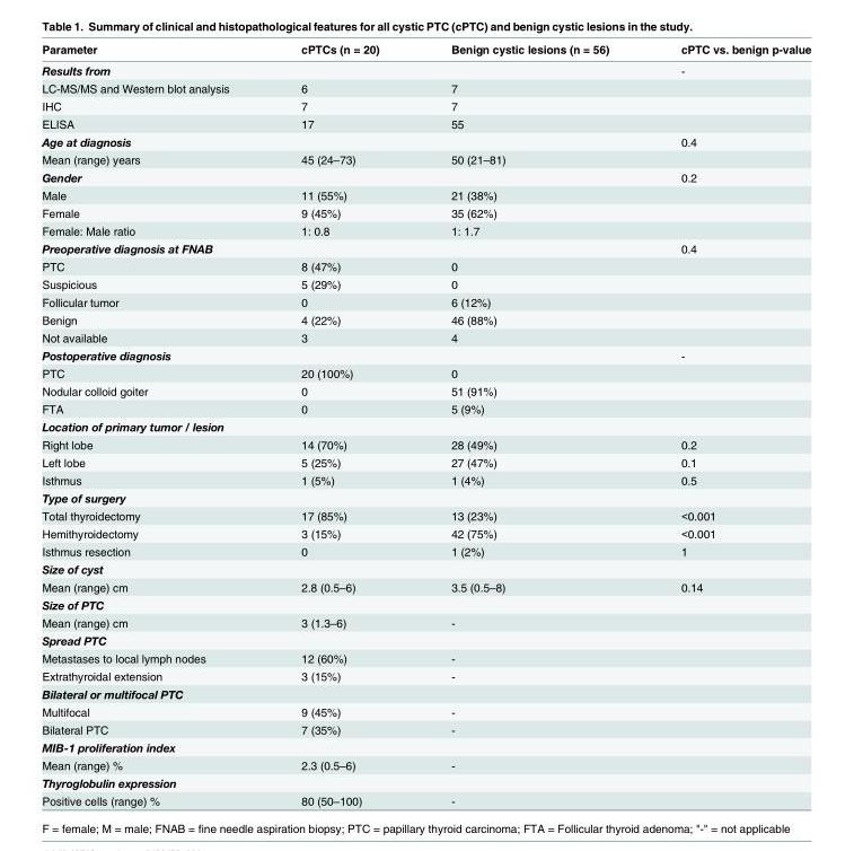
<table><thead><tr><td>Parameter</td><td>cPTCs (n = 20)</td><td>Benign cystic lesions (n = 56)</td><td>cPTC vs. benign p-value</td></tr></thead><tbody><tr><td>Results from</td><td></td><td></td><td>-</td></tr><tr><td>LC-MS/MS and Western blot analysis</td><td>6</td><td>7</td><td></td></tr><tr><td>IHC</td><td>7</td><td>7</td><td></td></tr><tr><td>ELISA</td><td>17</td><td>55</td><td></td></tr><tr><td>Age at diagnosis</td><td></td><td></td><td>0.4</td></tr><tr><td>Mean (range) years</td><td>45 (24–73)</td><td>50 (21–81)</td><td></td></tr><tr><td>Gender</td><td></td><td></td><td>0.2</td></tr><tr><td>Male</td><td>11 (55%)</td><td>21 (38%)</td><td></td></tr><tr><td>Female</td><td>9 (45%)</td><td>35 (62%)</td><td></td></tr><tr><td>Female: Male ratio</td><td>1: 0.8</td><td>1: 1.7</td><td></td></tr><tr><td>Preoperative diagnosis at FNAB</td><td></td><td></td><td>0.4</td></tr><tr><td>PTC</td><td>8 (47%)</td><td>0</td><td></td></tr><tr><td>Suspicious</td><td>5 (29%)</td><td>0</td><td></td></tr><tr><td>Follicular tumor</td><td>0</td><td>6 (12%)</td><td></td></tr><tr><td>Benign</td><td>4 (22%)</td><td>46 (88%)</td><td></td></tr><tr><td>Not available</td><td>3</td><td>4</td><td></td></tr><tr><td>Postoperative diagnosis</td><td></td><td></td><td>-</td></tr><tr><td>PTC</td><td>20 (100%)</td><td>0</td><td></td></tr><tr><td>Nodular colloid goiter</td><td>0</td><td>51 (91%)</td><td></td></tr><tr><td>FTA</td><td>0</td><td>5 (9%)</td><td></td></tr><tr><td colspan="4">Location of primary tumor / lesion</td></tr><tr><td>Right lobe</td><td>14 (70%)</td><td>28 (49%)</td><td>0.2</td></tr><tr><td>Left lobe</td><td>5 (25%)</td><td>27 (47%)</td><td>0.1</td></tr><tr><td>Isthmus</td><td>1 (5%)</td><td>1 (4%)</td><td>0.5</td></tr><tr><td colspan="4">Type of surgery</td></tr><tr><td>Total thyroidectomy</td><td>17 (85%)</td><td>13 (23%)</td><td>&lt;0.001</td></tr><tr><td>Hemithyroidectomy</td><td>3 (15%)</td><td>42 (75%)</td><td>&lt;0.001</td></tr><tr><td>Isthmus resection</td><td>0</td><td>1 (2%)</td><td>1</td></tr><tr><td colspan="4">Size of cyst</td></tr><tr><td>Mean (range) cm</td><td>2.8 (0.5–6)</td><td>3.5 (0.5–8)</td><td>0.14</td></tr><tr><td colspan="4">Size of PTC</td></tr><tr><td>Mean (range) cm</td><td>3 (1.3–6)</td><td>-</td><td></td></tr><tr><td colspan="4">Spread PTC</td></tr><tr><td>Metastases to local lymph nodes</td><td>12 (60%)</td><td>-</td><td></td></tr><tr><td>Extrathyroidal extension</td><td>3 (15%)</td><td>-</td><td></td></tr><tr><td colspan="4">Bilateral or multifocal PTC</td></tr><tr><td>Multifocal</td><td>9 (45%)</td><td>-</td><td></td></tr><tr><td>Bilateral PTC</td><td>7 (35%)</td><td>-</td><td></td></tr><tr><td colspan="4">MIB-1 proliferation index</td></tr><tr><td>Mean (range) %</td><td>2.3 (0.5–6)</td><td>-</td><td></td></tr><tr><td colspan="4">Thyroglobulin expression</td></tr><tr><td>Positive cells (range) %</td><td>80 (50–100)</td><td>-</td><td></td></tr></tbody></table>